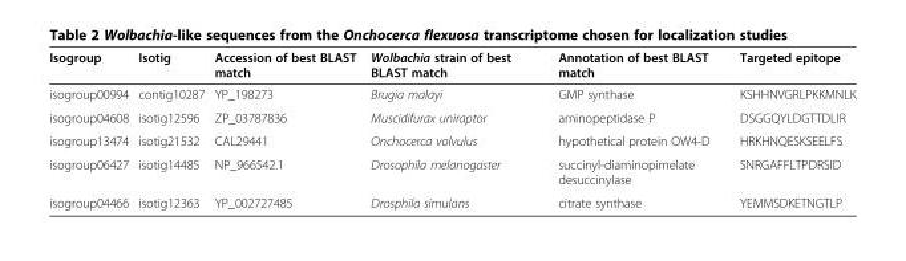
<table><thead><tr><td>Isogroup</td><td>Isotig</td><td>Accession of best BLAST match</td><td>Wolbachia strain of best BLAST match</td><td>Annotation of best BLAST match</td><td>Targeted epitope</td></tr></thead><tbody><tr><td>isogroup00994</td><td>contig10287</td><td>YP_198273</td><td>Brugia malayi</td><td>GMP synthase</td><td>KSHHNVGRLPKKMNLK</td></tr><tr><td>isogroup04608</td><td>isotig12596</td><td>ZP_03787836</td><td>Muscidifurax uniraptor</td><td>aminopeptidase P</td><td>DSGGQYLDGTTDLIR</td></tr><tr><td>isogroup13474</td><td>isotig21532</td><td>CAL29441</td><td>Onchocerca volvulus</td><td>hypothetical protein OW4-D</td><td>HRKHNQESKSEELFS</td></tr><tr><td>isogroup06427</td><td>isotig14485</td><td>NP_966542.1</td><td>Drosophila melanogaster</td><td>succinyl-diaminopimelate desuccinylase</td><td>SNRGAFFLTPDRSID</td></tr><tr><td>isogroup04466</td><td>isotig12363</td><td>YP_002727485</td><td>Drosphila simulans</td><td>citrate synthase</td><td>YEMMSDKETNGTLP</td></tr></tbody></table>